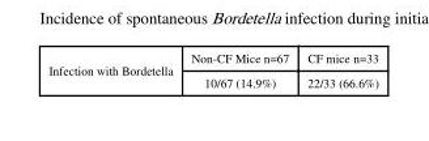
<table><tbody><tr><td rowspan="2">Infection with Bordetella</td><td>Non-CF Mice n=67</td><td>CF mice n=33</td></tr><tr><td>10/67 (14.9%)</td><td>22/33 (66.6%)</td></tr></tbody></table>